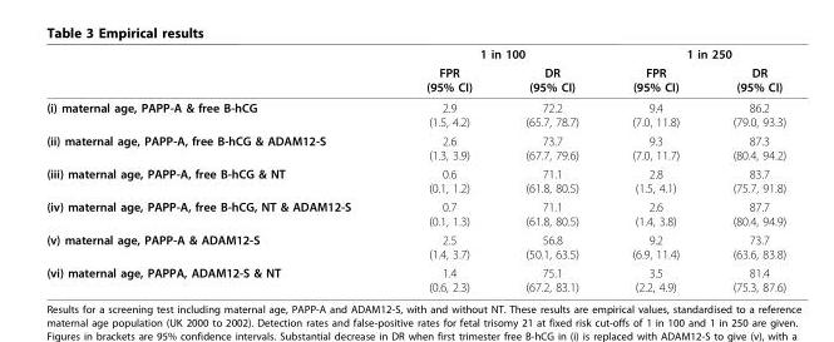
<table><thead><tr><td rowspan="2"></td><td colspan="2">1 in 100</td><td colspan="2">1 in 250</td></tr><tr><td>FPR (95% CI)</td><td>DR (95% CI)</td><td>FPR (95% CI)</td><td>DR (95% CI)</td></tr></thead><tbody><tr><td>(i) maternal age, PAPP-A &amp; free B-hCG</td><td>2.9 (1.5, 4.2)</td><td>72.2 (65.7, 78.7)</td><td>9.4 (7.0, 11.8)</td><td>86.2 (79.0, 93.3)</td></tr><tr><td>(ii) maternal age, PAPP-A, free B-hCG &amp; ADAM12-S</td><td>2.6 (1.3, 3.9)</td><td>73.7 (67.7, 79.6)</td><td>9.3 (7.0, 11.7)</td><td>87.3 (80.4, 94.2)</td></tr><tr><td>(iii) maternal age, PAPP-A, free B-hCG &amp; NT</td><td>0.6 (0.1, 1.2)</td><td>71.1 (61.8, 80.5)</td><td>2.8 (1.5, 4.1)</td><td>83.7 (75.7, 91.8)</td></tr><tr><td>(iv) maternal age, PAPP-A, free B-hCG, NT &amp; ADAM12-S</td><td>0.7 (0.1, 1.3)</td><td>71.1 (61.8, 80.5)</td><td>2.6 (1.4, 3.8)</td><td>87.7 (80.4, 94.9)</td></tr><tr><td>(v) maternal age, PAPP-A &amp; ADAM12-S</td><td>2.5 (1.4, 3.7)</td><td>56.8 (50.1, 63.5)</td><td>9.2 (6.9, 11.4)</td><td>73.7 (63.6, 83.8)</td></tr><tr><td>(vi) maternal age, PAPPA, ADAM12-S &amp; NT</td><td>1.4 (0.6, 2.3)</td><td>75.1 (67.2, 83.1)</td><td>3.5 (2.2, 4.9)</td><td>81.4 (75.3, 87.6)</td></tr></tbody></table>